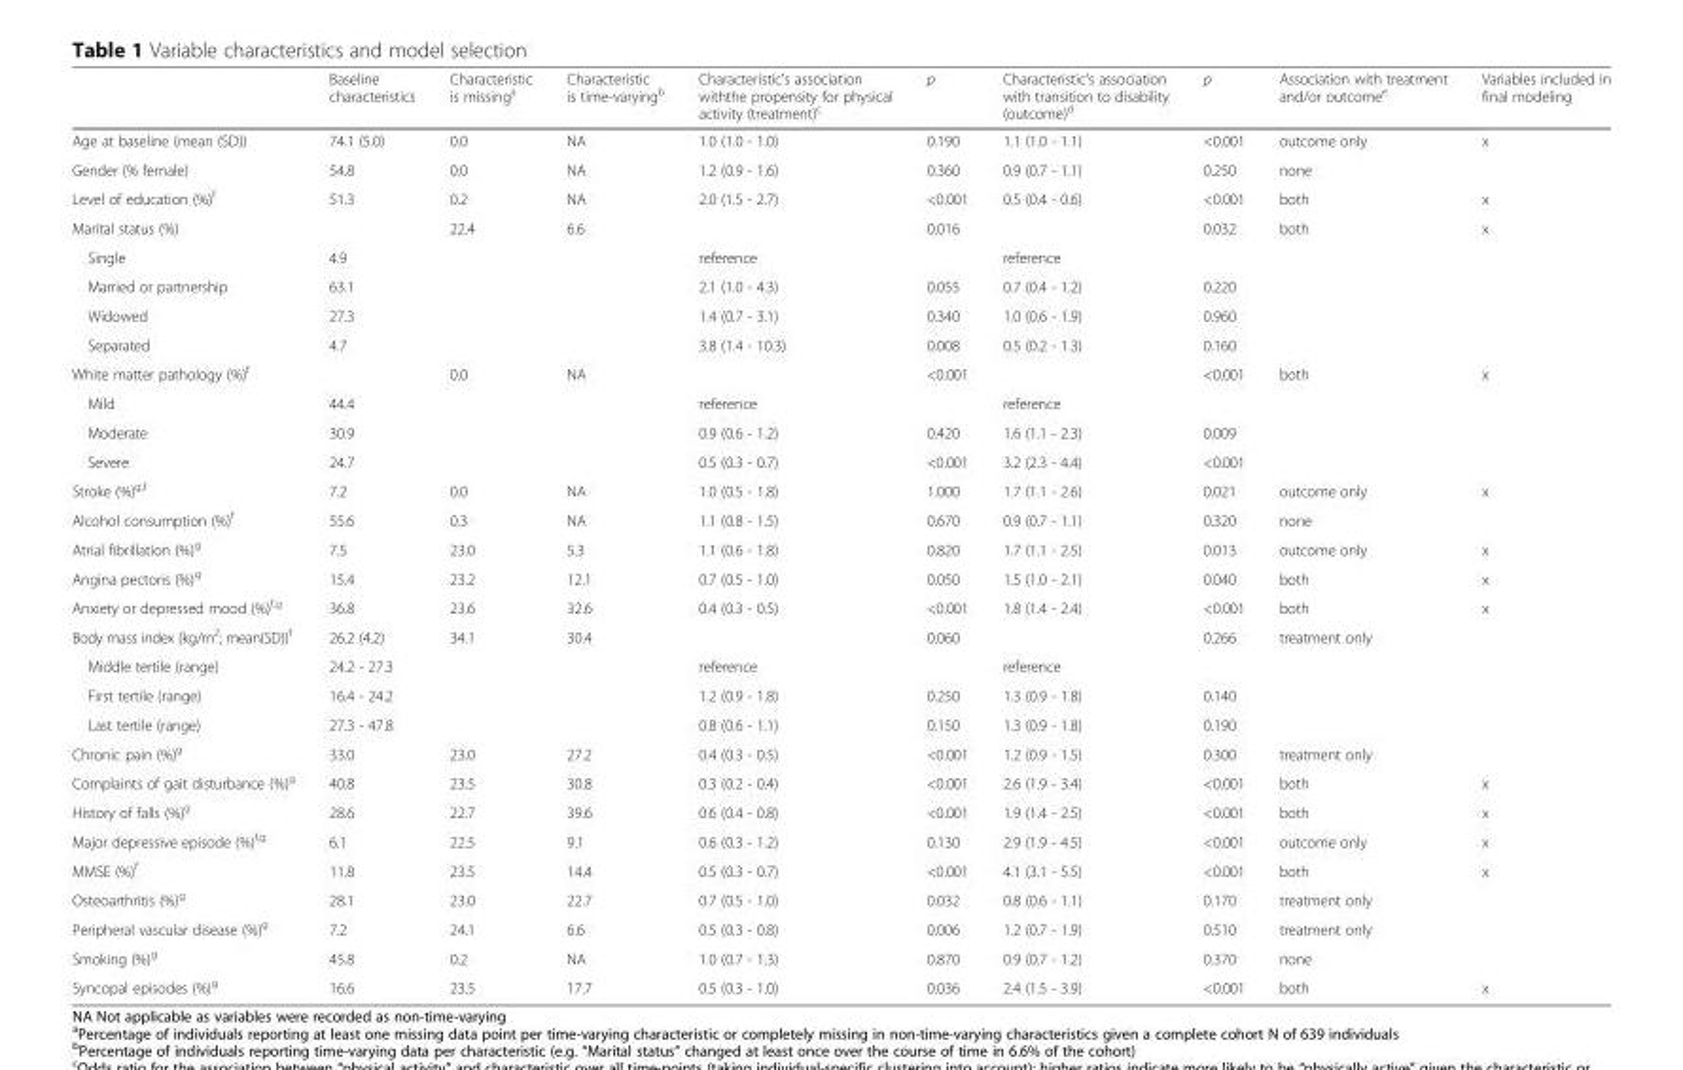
<table><thead><tr><td></td><td>Baseline characteristics</td><td>Characteristic is missing<sup>a</sup></td><td>Characteristic is time-varying<sup>b</sup></td><td>Characteristic&#x27;s association withthe propensity for physical activity (treatment)<sup>c</sup></td><td>p</td><td>Characteristic&#x27;s association with transition to disability (outcome)<sup>d</sup></td><td>p</td><td>Association with treatment and/or outcome<sup>e</sup></td><td>Variables included in final modeling</td></tr></thead><tbody><tr><td>Age at baseline (mean (SD))</td><td>74.1 (5.0)</td><td>0.0</td><td>NA</td><td>1.0 (1.0 - 1.0)</td><td>0.190</td><td>1.1 (1.0 - 1.1)</td><td>&lt;0.001</td><td>outcome only</td><td>x</td></tr><tr><td>Gender (% female)</td><td>54.8</td><td>0.0</td><td>NA</td><td>1.2 (0.9 - 1.6)</td><td>0.360</td><td>0.9 (0.7 - 1.1)</td><td>0.250</td><td>none</td><td></td></tr><tr><td>Level of education (%)<sup>f</sup></td><td>51.3</td><td>0.2</td><td>NA</td><td>2.0 (1.5 - 2.7)</td><td>&lt;0.001</td><td>0.5 (0.4 - 0.6)</td><td>&lt;0.001</td><td>both</td><td>x</td></tr><tr><td>Marital status (%)</td><td></td><td>22.4</td><td>6.6</td><td></td><td>0.016</td><td></td><td>0.032</td><td>both</td><td>x</td></tr><tr><td>Single</td><td>4.9</td><td></td><td></td><td>reference</td><td></td><td>reference</td><td></td><td></td><td></td></tr><tr><td>Married or partnership</td><td>63.1</td><td></td><td></td><td>2.1 (1.0 - 4.3)</td><td>0.055</td><td>0.7 (0.4 - 1.2)</td><td>0.220</td><td></td><td></td></tr><tr><td>Widowed</td><td>27.3</td><td></td><td></td><td>1.4 (0.7 - 3.1)</td><td>0.340</td><td>1.0 (0.6 - 1.9)</td><td>0.960</td><td></td><td></td></tr><tr><td>Separated</td><td>4.7</td><td></td><td></td><td>3.8 (1.4 - 10.3)</td><td>0.008</td><td>0.5 (0.2 - 1.3)</td><td>0.160</td><td></td><td></td></tr><tr><td>White matter pathology (%)<sup>f</sup></td><td></td><td>0.0</td><td>NA</td><td></td><td>&lt;0.001</td><td></td><td>&lt;0.001</td><td>both</td><td>x</td></tr><tr><td>Mild</td><td>44.4</td><td></td><td></td><td>reference</td><td></td><td>reference</td><td></td><td></td><td></td></tr><tr><td>Moderate</td><td>30.9</td><td></td><td></td><td>0.9 (0.6 - 1.2)</td><td>0.420</td><td>1.6 (1.1 - 2.3)</td><td>0.009</td><td></td><td></td></tr><tr><td>Severe</td><td>24.7</td><td></td><td></td><td>0.5 (0.3 - 0.7)</td><td>&lt;0.001</td><td>3.2 (2.3 - 4.4)</td><td>&lt;0.001</td><td></td><td></td></tr><tr><td>Stroke (%)<sup>g,f</sup></td><td>7.2</td><td>0.0</td><td>NA</td><td>1.0 (0.5 - 1.8)</td><td>1.000</td><td>1.7 (1.1 - 2.6)</td><td>0.021</td><td>outcome only</td><td>x</td></tr><tr><td>Alcohol consumption (%)<sup>f</sup></td><td>55.6</td><td>0.3</td><td>NA</td><td>1.1 (0.8 - 1.5)</td><td>0.670</td><td>0.9 (0.7 - 1.1)</td><td>0.320</td><td>none</td><td></td></tr><tr><td>Atrial fibrillation (%)<sup>g</sup></td><td>7.5</td><td>23.0</td><td>5.3</td><td>1.1 (0.6 - 1.8)</td><td>0.820</td><td>1.7 (1.1 - 2.5)</td><td>0.013</td><td>outcome only</td><td>x</td></tr><tr><td>Angina pectoris (%)<sup>g</sup></td><td>15.4</td><td>23.2</td><td>12.1</td><td>0.7 (0.5 - 1.0)</td><td>0.050</td><td>1.5 (1.0 - 2.1)</td><td>0.040</td><td>both</td><td>x</td></tr><tr><td>Anxiety or depressed mood (%)<sup>f,g</sup></td><td>36.8</td><td>23.6</td><td>32.6</td><td>0.4 (0.3 - 0.5)</td><td>&lt;0.001</td><td>1.8 (1.4 - 2.4)</td><td>&lt;0.001</td><td>both</td><td>x</td></tr><tr><td>Body mass index (kg/m<sup>2</sup>; mean(SD))<sup>f</sup></td><td>26.2 (4.2)</td><td>34.1</td><td>30.4</td><td></td><td>0.060</td><td></td><td>0.266</td><td>treatment only</td><td></td></tr><tr><td>Middle tertile (range)</td><td>24.2 - 27.3</td><td></td><td></td><td>reference</td><td></td><td>reference</td><td></td><td></td><td></td></tr><tr><td>First tertile (range)</td><td>16.4 - 24.2</td><td></td><td></td><td>1.2 (0.9 - 1.8)</td><td>0.250</td><td>1.3 (0.9 - 1.8)</td><td>0.140</td><td></td><td></td></tr><tr><td>Last tertile (range)</td><td>27.3 - 47.8</td><td></td><td></td><td>0.8 (0.6 - 1.1)</td><td>0.150</td><td>1.3 (0.9 - 1.8)</td><td>0.190</td><td></td><td></td></tr><tr><td>Chronic pain (%)<sup>g</sup></td><td>33.0</td><td>23.0</td><td>27.2</td><td>0.4 (0.3 - 0.5)</td><td>&lt;0.001</td><td>1.2 (0.9 - 1.5)</td><td>0.300</td><td>treatment only</td><td></td></tr><tr><td>Complaints of gait disturbance (%)<sup>g</sup></td><td>40.8</td><td>23.5</td><td>30.8</td><td>0.3 (0.2 - 0.4)</td><td>&lt;0.001</td><td>2.6 (1.9 - 3.4)</td><td>&lt;0.001</td><td>both</td><td>x</td></tr><tr><td>History of falls (%)<sup>g</sup></td><td>28.6</td><td>22.7</td><td>39.6</td><td>0.6 (0.4 - 0.8)</td><td>&lt;0.001</td><td>1.9 (1.4 - 2.5)</td><td>&lt;0.001</td><td>both</td><td>x</td></tr><tr><td>Major depressive episode (%)<sup>f,g</sup></td><td>6.1</td><td>22.5</td><td>9.1</td><td>0.6 (0.3 - 1.2)</td><td>0.130</td><td>2.9 (1.9 - 4.5)</td><td>&lt;0.001</td><td>outcome only</td><td>x</td></tr><tr><td>MMSE (%)<sup>f</sup></td><td>11.8</td><td>23.5</td><td>14.4</td><td>0.5 (0.3 - 0.7)</td><td>&lt;0.001</td><td>4.1 (3.1 - 5.5)</td><td>&lt;0.001</td><td>both</td><td>x</td></tr><tr><td>Osteoarthritis (%)<sup>g</sup></td><td>28.1</td><td>23.0</td><td>22.7</td><td>0.7 (0.5 - 1.0)</td><td>0.032</td><td>0.8 (0.6 - 1.1)</td><td>0.170</td><td>treatment only</td><td></td></tr><tr><td>Peripheral vascular disease (%)<sup>g</sup></td><td>7.2</td><td>24.1</td><td>6.6</td><td>0.5 (0.3 - 0.8)</td><td>0.006</td><td>1.2 (0.7 - 1.9)</td><td>0.510</td><td>treatment only</td><td></td></tr><tr><td>Smoking (%)<sup>g</sup></td><td>45.8</td><td>0.2</td><td>NA</td><td>1.0 (0.7 - 1.3)</td><td>0.870</td><td>0.9 (0.7 - 1.2)</td><td>0.370</td><td>none</td><td></td></tr><tr><td>Syncopal episodes (%)<sup>g</sup></td><td>16.6</td><td>23.5</td><td>17.7</td><td>0.5 (0.3 - 1.0)</td><td>0.036</td><td>2.4 (1.5 - 3.9)</td><td>&lt;0.001</td><td>both</td><td>x</td></tr></tbody></table>